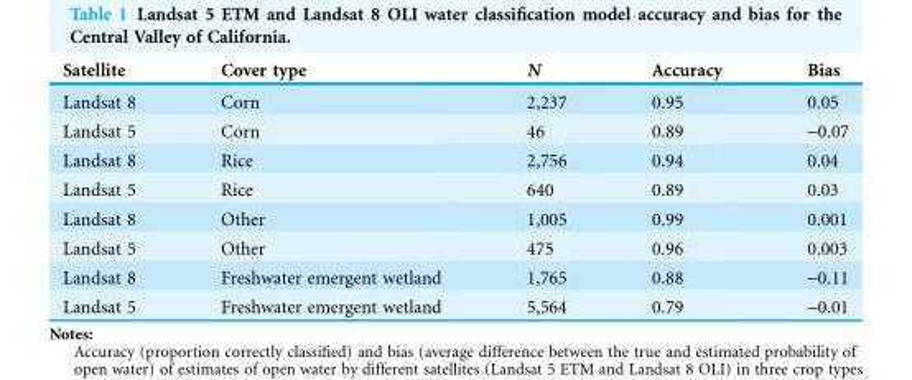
<table><thead><tr><td>Satellite</td><td>Cover type</td><td>N</td><td>Accuracy</td><td>Bias</td></tr></thead><tbody><tr><td>Landsat 8</td><td>Corn</td><td>2,237</td><td>0.95</td><td>0.05</td></tr><tr><td>Landsat 5</td><td>Corn</td><td>46</td><td>0.89</td><td>-0.07</td></tr><tr><td>Landsat 8</td><td>Rice</td><td>2,756</td><td>0.94</td><td>0.04</td></tr><tr><td>Landsat 5</td><td>Rice</td><td>640</td><td>0.89</td><td>0.03</td></tr><tr><td>Landsat 8</td><td>Other</td><td>1,005</td><td>0.99</td><td>0.001</td></tr><tr><td>Landsat 5</td><td>Other</td><td>475</td><td>0.96</td><td>0.003</td></tr><tr><td>Landsat 8</td><td>Freshwater emergent wetland</td><td>1,765</td><td>0.88</td><td>-0.11</td></tr><tr><td>Landsat 5</td><td>Freshwater emergent wetland</td><td>5,564</td><td>0.79</td><td>-0.01</td></tr></tbody></table>